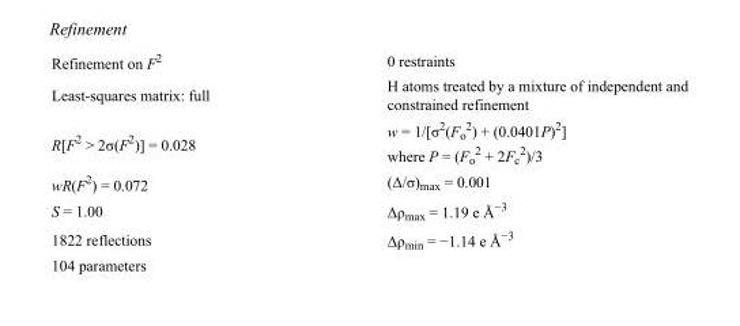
<table><tbody><tr><td>Refinement on F<sup>2</sup></td><td>0 restraints</td></tr><tr><td>Least-squares matrix: full</td><td>H atoms treated by a mixture of independent and constrained refinement</td></tr><tr><td>R[F<sup>2</sup> &gt; 2σ(F<sup>2</sup>)] = 0.028</td><td>w = 1/[σ<sup>2</sup>(F<sub>o</sub> <sup>2</sup>) + (0.0401P)<sup>2</sup>] where P = (F<sub>o</sub> <sup>2</sup> + 2F<sub>c</sub> <sup>2</sup>)/3</td></tr><tr><td>wR(F<sup>2</sup>) = 0.072</td><td>(Δ/σ)<sub>max</sub> = 0.001</td></tr><tr><td>S = 1.00</td><td>Δρ<sub>max</sub> = 1.19 e Å<sup>−3</sup></td></tr><tr><td>1822 reflections</td><td>Δρ<sub>min</sub> = −1.14 e Å<sup>−3</sup></td></tr><tr><td>104 parameters</td><td></td></tr></tbody></table>